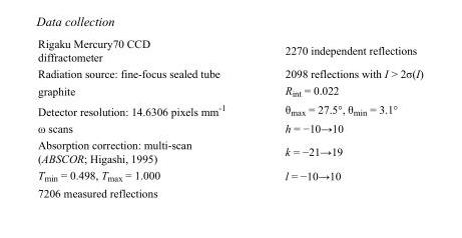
<table><tbody><tr><td>Rigaku Mercury70 CCD diffractometer</td><td>2270 independent reflections</td></tr><tr><td>Radiation source: fine-focus sealed tube</td><td>2098 reflections with I &gt; 2σ(I)</td></tr><tr><td>graphite</td><td>R<sub>int</sub> = 0.022</td></tr><tr><td>Detector resolution: 14.6306 pixels mm<sup>-1</sup></td><td>θ<sub>max</sub> = 27.5°, θ<sub>min</sub> = 3.1°</td></tr><tr><td>ω scans</td><td>h = −10→10</td></tr><tr><td>Absorption correction: multi-scan (ABSCOR; Higashi, 1995)</td><td>k = −21→19</td></tr><tr><td>T<sub>min</sub> = 0.498, T<sub>max</sub> = 1.000</td><td>l = −10→10</td></tr><tr><td>7206 measured reflections</td><td></td></tr></tbody></table>